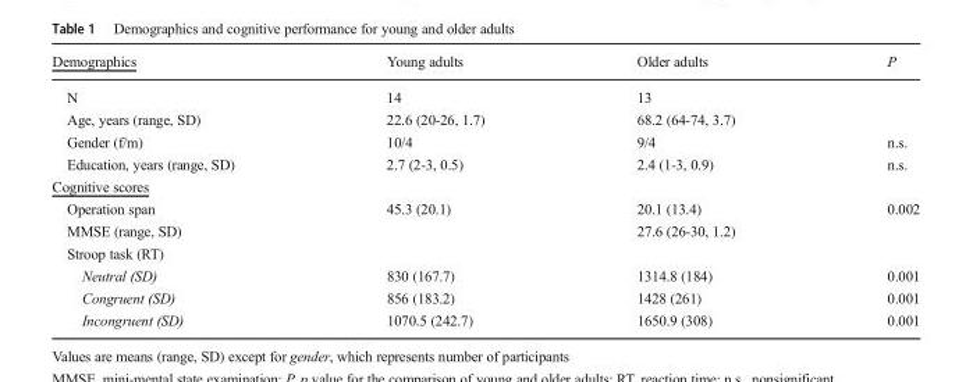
<table><thead><tr><td>Demographics</td><td>Young adults</td><td>Older adults</td><td>P</td></tr></thead><tbody><tr><td>N</td><td>14</td><td>13</td><td></td></tr><tr><td>Age, years (range, SD)</td><td>22.6 (20-26, 1.7)</td><td>68.2 (64-74, 3.7)</td><td></td></tr><tr><td>Gender (f/m)</td><td>10/4</td><td>9/4</td><td>n.s.</td></tr><tr><td>Education, years (range, SD)</td><td>2.7 (2-3, 0.5)</td><td>2.4 (1-3, 0.9)</td><td>n.s.</td></tr><tr><td colspan="4">Cognitive scores</td></tr><tr><td>Operation span</td><td>45.3 (20.1)</td><td>20.1 (13.4)</td><td>0.002</td></tr><tr><td>MMSE (range, SD)</td><td></td><td>27.6 (26-30, 1.2)</td><td></td></tr><tr><td colspan="4">Stroop task (RT)</td></tr><tr><td>Neutral (SD)</td><td>830 (167.7)</td><td>1314.8 (184)</td><td>0.001</td></tr><tr><td>Congruent (SD)</td><td>856 (183.2)</td><td>1428 (261)</td><td>0.001</td></tr><tr><td>Incongruent (SD)</td><td>1070.5 (242.7)</td><td>1650.9 (308)</td><td>0.001</td></tr></tbody></table>